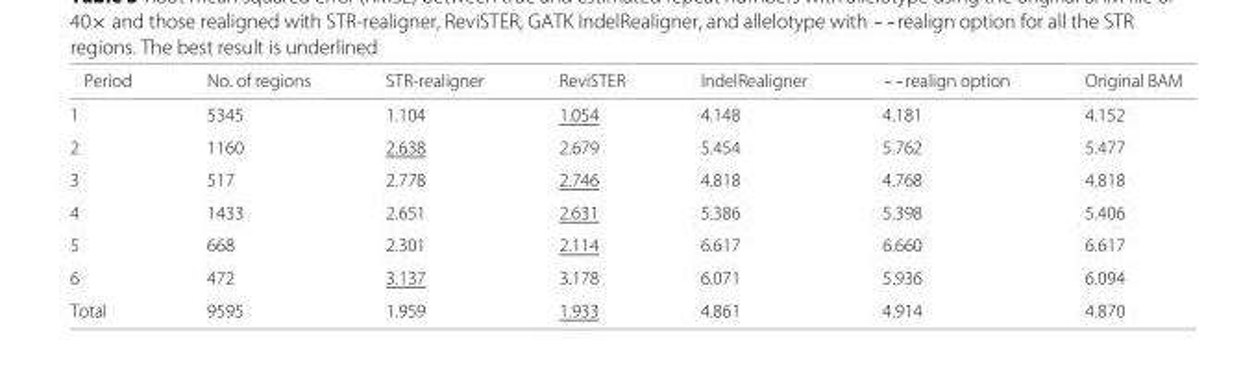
<table><thead><tr><td>Period</td><td>No. of regions</td><td>STR-realigner</td><td>ReviSTER</td><td>IndelRealigner</td><td>--realign option</td><td>Original BAM</td></tr></thead><tbody><tr><td>1</td><td>5345</td><td>1.104</td><td>1.054</td><td>4.148</td><td>4.181</td><td>4.152</td></tr><tr><td>2</td><td>1160</td><td>2.638</td><td>2.679</td><td>5.454</td><td>5.762</td><td>5.477</td></tr><tr><td>3</td><td>517</td><td>2.778</td><td>2.746</td><td>4.818</td><td>4.768</td><td>4.818</td></tr><tr><td>4</td><td>1433</td><td>2.651</td><td>2.631</td><td>5.386</td><td>5.398</td><td>5.406</td></tr><tr><td>5</td><td>668</td><td>2.301</td><td>2.114</td><td>6.617</td><td>6.660</td><td>6.617</td></tr><tr><td>6</td><td>472</td><td>3.137</td><td>3.178</td><td>6.071</td><td>5.936</td><td>6.094</td></tr><tr><td>Total</td><td>9595</td><td>1.959</td><td>1.933</td><td>4.861</td><td>4.914</td><td>4.870</td></tr></tbody></table>